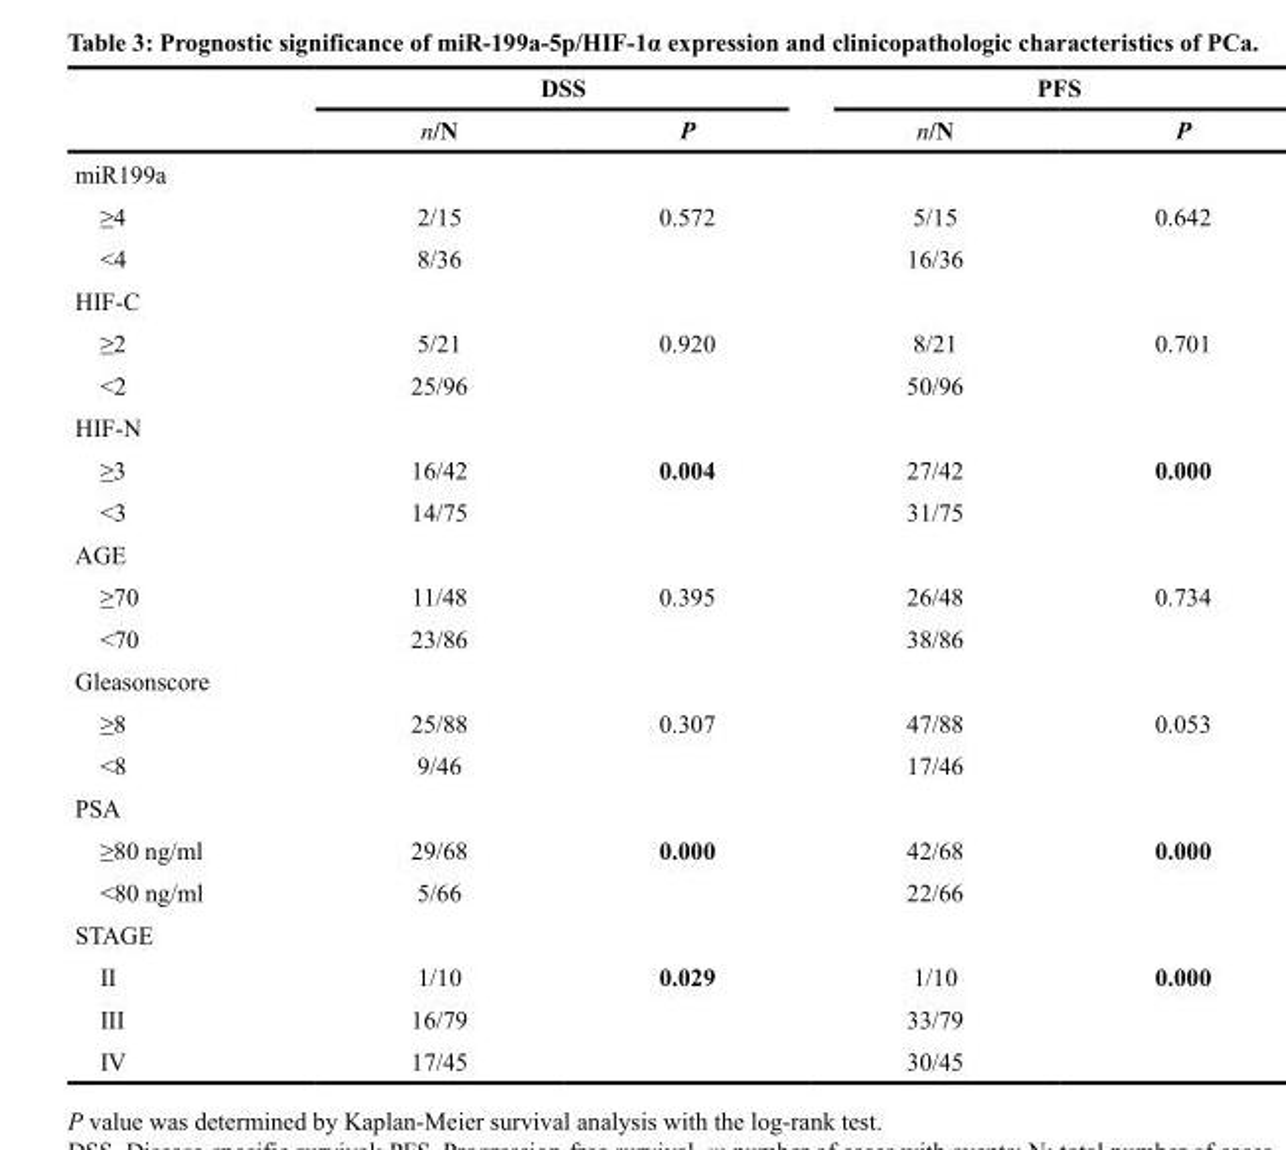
<table><thead><tr><td rowspan="2"></td><td colspan="2">DSS</td><td colspan="2">PFS</td></tr><tr><td>n/N</td><td>P</td><td>n/N</td><td>P</td></tr></thead><tbody><tr><td colspan="5">miR199a</td></tr><tr><td>≥4</td><td>2/15</td><td>0.572</td><td>5/15</td><td>0.642</td></tr><tr><td>&lt;4</td><td>8/36</td><td></td><td>16/36</td><td></td></tr><tr><td colspan="5">HIF-C</td></tr><tr><td>≥2</td><td>5/21</td><td>0.920</td><td>8/21</td><td>0.701</td></tr><tr><td>&lt;2</td><td>25/96</td><td></td><td>50/96</td><td></td></tr><tr><td colspan="5">HIF-N</td></tr><tr><td>≥3</td><td>16/42</td><td>0.004</td><td>27/42</td><td>0.000</td></tr><tr><td>&lt;3</td><td>14/75</td><td></td><td>31/75</td><td></td></tr><tr><td colspan="5">AGE</td></tr><tr><td>≥70</td><td>11/48</td><td>0.395</td><td>26/48</td><td>0.734</td></tr><tr><td>&lt;70</td><td>23/86</td><td></td><td>38/86</td><td></td></tr><tr><td colspan="5">Gleasonscore</td></tr><tr><td>≥8</td><td>25/88</td><td>0.307</td><td>47/88</td><td>0.053</td></tr><tr><td>&lt;8</td><td>9/46</td><td></td><td>17/46</td><td></td></tr><tr><td colspan="5">PSA</td></tr><tr><td>≥80 ng/ml</td><td>29/68</td><td>0.000</td><td>42/68</td><td>0.000</td></tr><tr><td>&lt;80 ng/ml</td><td>5/66</td><td></td><td>22/66</td><td></td></tr><tr><td colspan="5">STAGE</td></tr><tr><td>II</td><td>1/10</td><td>0.029</td><td>1/10</td><td>0.000</td></tr><tr><td>III</td><td>16/79</td><td></td><td>33/79</td><td></td></tr><tr><td>IV</td><td>17/45</td><td></td><td>30/45</td><td></td></tr></tbody></table>